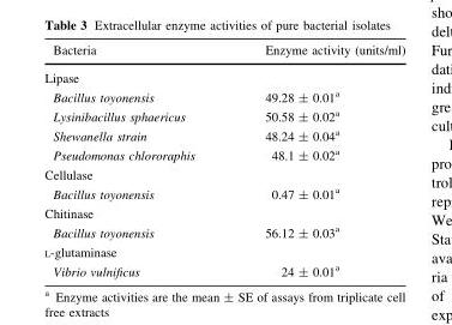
<table><thead><tr><td>Bacteria</td><td>Enzyme activity (units/ml)</td></tr></thead><tbody><tr><td colspan="2">Lipase</td></tr><tr><td>Bacillus toyonensis</td><td>49.28 ± 0.01<sup>a</sup></td></tr><tr><td>Lysinibacillus sphaericus</td><td>50.58 ± 0.02<sup>a</sup></td></tr><tr><td>Shewanella strain</td><td>48.24 ± 0.04<sup>a</sup></td></tr><tr><td>Pseudomonas chlororaphis</td><td>48.1 ± 0.02<sup>a</sup></td></tr><tr><td colspan="2">Cellulase</td></tr><tr><td>Bacillus toyonensis</td><td>0.47 ± 0.01<sup>a</sup></td></tr><tr><td colspan="2">Chitinase</td></tr><tr><td>Bacillus toyonensis</td><td>56.12 ± 0.03<sup>a</sup></td></tr><tr><td colspan="2">L-glutaminase</td></tr><tr><td>Vibrio vulnificus</td><td>24 ± 0.01<sup>a</sup></td></tr></tbody></table>